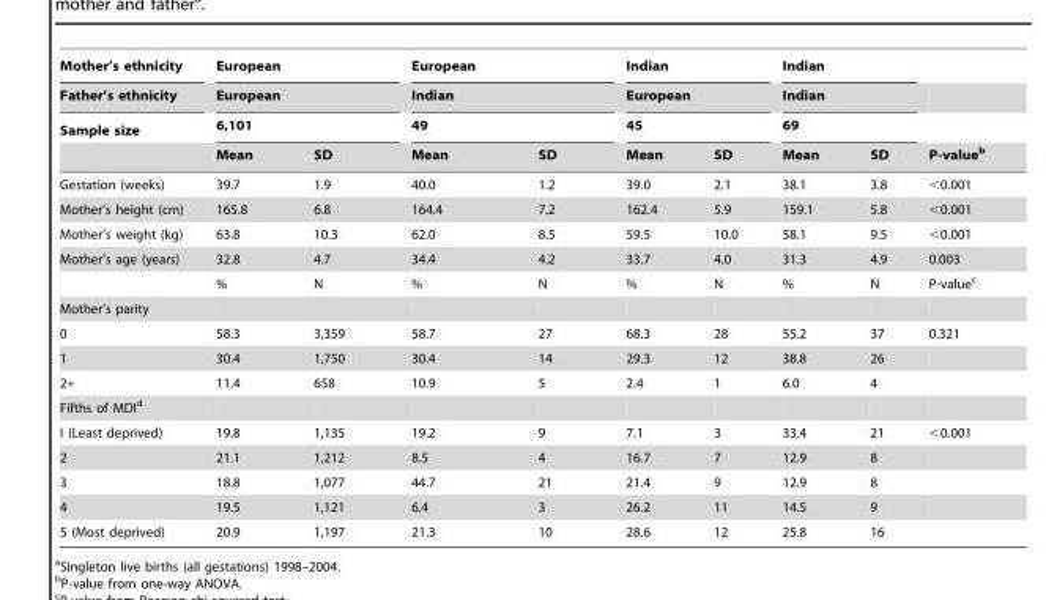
<table><thead><tr><td rowspan="4">Mother’s ethnicity Father’s ethnicity Sample size</td><td rowspan="3" colspan="2">European European 6,101</td><td rowspan="3" colspan="2">European Indian 49</td><td rowspan="3" colspan="2">Indian European 45</td><td rowspan="3" colspan="2">Indian Indian 69</td><td rowspan="4">P-value<sup>b</sup></td></tr><tr></tr><tr></tr><tr><td>Mean</td><td>SD</td><td>Mean</td><td>SD</td><td>Mean</td><td>SD</td><td>Mean</td><td>SD</td></tr></thead><tbody><tr><td>Gestation (weeks)</td><td>39.7</td><td>1.9</td><td>40.0</td><td>1.2</td><td>39.0</td><td>2.1</td><td>38.1</td><td>3.8</td><td>&lt;0.001</td></tr><tr><td>Mother’s height (cm)</td><td>165.8</td><td>6.8</td><td>164.4</td><td>7.2</td><td>162.4</td><td>5.9</td><td>159.1</td><td>5.8</td><td>&lt;0.001</td></tr><tr><td>Mother’s weight (kg)</td><td>63.8</td><td>10.3</td><td>62.0</td><td>8.5</td><td>59.5</td><td>10.0</td><td>58.1</td><td>9.5</td><td>&lt;0.001</td></tr><tr><td rowspan="2">Mother’s age (years)</td><td>32.8</td><td>4.7</td><td>34.4</td><td>4.2</td><td>33.7</td><td>4.0</td><td>31.3</td><td>4.9</td><td>0.003</td></tr><tr><td>%</td><td>N</td><td>%</td><td>N</td><td>%</td><td>N</td><td>%</td><td>N</td><td>P-value<sup>c</sup></td></tr><tr><td colspan="10">Mother’s parity</td></tr><tr><td>0</td><td>58.3</td><td>3,359</td><td>58.7</td><td>27</td><td>68.3</td><td>28</td><td>55.2</td><td>37</td><td>0.321</td></tr><tr><td>1</td><td>30.4</td><td>1,750</td><td>30.4</td><td>14</td><td>29.3</td><td>12</td><td>38.8</td><td>26</td><td></td></tr><tr><td>2+</td><td>11.4</td><td>658</td><td>10.9</td><td>5</td><td>2.4</td><td>1</td><td>6.0</td><td>4</td><td></td></tr><tr><td colspan="10">Fifths of MDI<sup>d</sup></td></tr><tr><td>I (Least deprived)</td><td>19.8</td><td>1,135</td><td>19.2</td><td>9</td><td>7.1</td><td>3</td><td>33.4</td><td>21</td><td>&lt;0.001</td></tr><tr><td>2</td><td>21.1</td><td>1,212</td><td>8.5</td><td>4</td><td>16.7</td><td>7</td><td>12.9</td><td>8</td><td></td></tr><tr><td>3</td><td>18.8</td><td>1,077</td><td>44.7</td><td>21</td><td>21.4</td><td>9</td><td>12.9</td><td>8</td><td></td></tr><tr><td>4</td><td>19.5</td><td>1,121</td><td>6.4</td><td>3</td><td>26.2</td><td>11</td><td>14.5</td><td>9</td><td></td></tr><tr><td>5 (Most deprived)</td><td>20.9</td><td>1,197</td><td>21.3</td><td>10</td><td>28.6</td><td>12</td><td>25.8</td><td>16</td><td></td></tr></tbody></table>